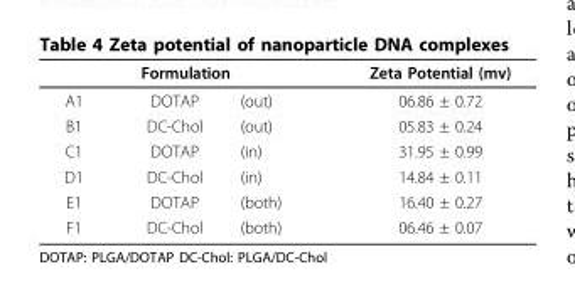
<table><thead><tr><td colspan="3">Formulation</td><td rowspan="2">Zeta Potential (mv) 06.86 ± 0.72</td></tr><tr><td>A1</td><td>DOTAP</td><td>(out)</td></tr></thead><tbody><tr><td>B1</td><td>DC-Chol</td><td>(out)</td><td>05.83 ± 0.24</td></tr><tr><td>C1</td><td>DOTAP</td><td>(in)</td><td>31.95 ± 0.99</td></tr><tr><td>D1</td><td>DC-Chol</td><td>(in)</td><td>14.84 ± 0.11</td></tr><tr><td>E1</td><td>DOTAP</td><td>(both)</td><td>16.40 ± 0.27</td></tr><tr><td>F1</td><td>DC-Chol</td><td>(both)</td><td>06.46 ± 0.07</td></tr></tbody></table>